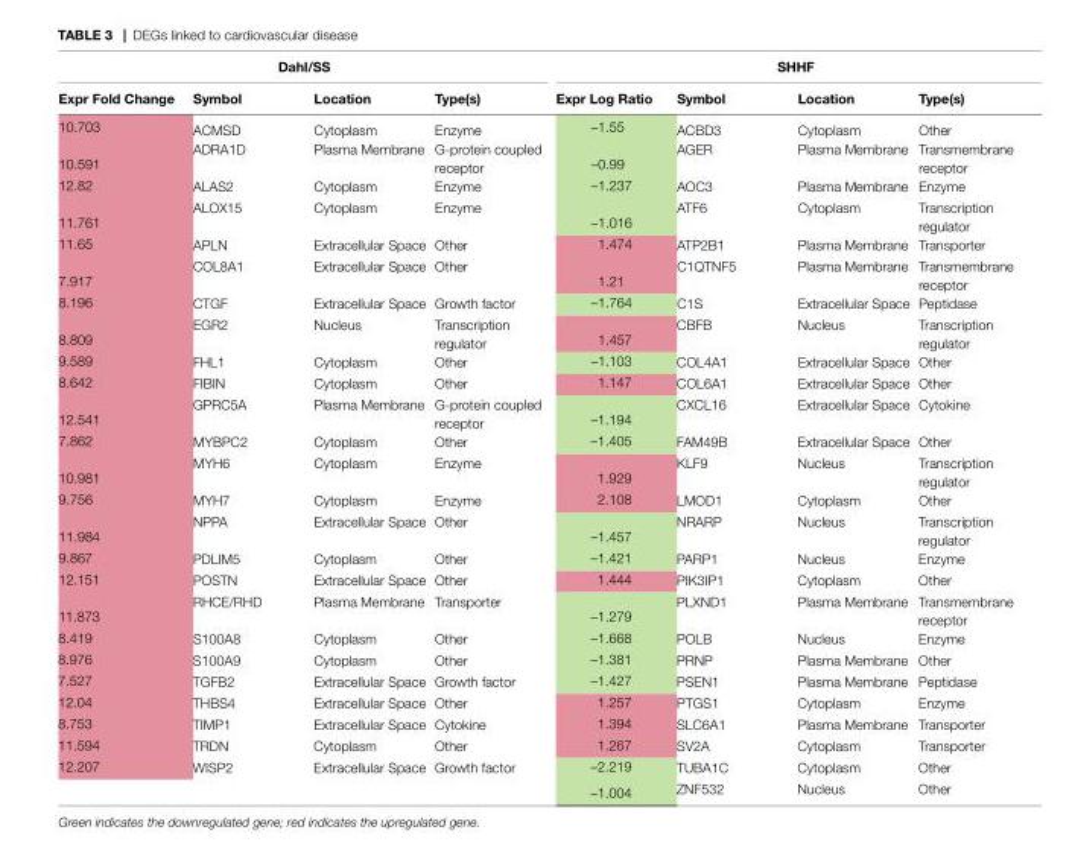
<table><thead><tr><td colspan="4">Dahl/ss</td><td colspan="4">shhF</td></tr><tr><td>expr Fold change</td><td>symbol</td><td>location</td><td>Type(s)</td><td>expr log ratio</td><td>symbol</td><td>location</td><td>Type(s)</td></tr></thead><tbody><tr><td>10.703</td><td>ACMSD</td><td>Cytoplasm</td><td>Enzyme</td><td>–1.55</td><td>ACBD3</td><td>Cytoplasm</td><td>Other</td></tr><tr><td>10.591</td><td>ADRA1D</td><td>Plasma Membrane</td><td>G-protein coupled receptor</td><td>–0.99</td><td>AGER</td><td>Plasma Membrane</td><td>Transmembrane receptor</td></tr><tr><td>12.82</td><td>ALAS2</td><td>Cytoplasm</td><td>Enzyme</td><td>–1.237</td><td>AOC3</td><td>Plasma Membrane</td><td>Enzyme</td></tr><tr><td>11.761</td><td>ALOX15</td><td>Cytoplasm</td><td>Enzyme</td><td>–1.016</td><td>ATF6</td><td>Cytoplasm</td><td>Transcription regulator</td></tr><tr><td>11.65</td><td>APLN</td><td>Extracellular Space</td><td>Other</td><td>1.474</td><td>ATP2B1</td><td>Plasma Membrane</td><td>Transporter</td></tr><tr><td>7.917</td><td>COL8A1</td><td>Extracellular Space</td><td>Other</td><td>1.21</td><td>C1QTNF5</td><td>Plasma Membrane</td><td>Transmembrane receptor</td></tr><tr><td>8.196</td><td>CTGF</td><td>Extracellular Space</td><td>Growth factor</td><td>–1.764</td><td>C1S</td><td>Extracellular Space</td><td>Peptidase</td></tr><tr><td>8.809</td><td>EGR2</td><td>Nucleus</td><td>Transcription regulator</td><td>1.457</td><td>CBFB</td><td>Nucleus</td><td>Transcription regulator</td></tr><tr><td>9.589</td><td>FHL1</td><td>Cytoplasm</td><td>Other</td><td>–1.103</td><td>COL4A1</td><td>Extracellular Space</td><td>Other</td></tr><tr><td>8.642</td><td>FIBIN</td><td>Cytoplasm</td><td>Other</td><td>1.147</td><td>COL6A1</td><td>Extracellular Space</td><td>Other</td></tr><tr><td>12.541</td><td>GPRC5A</td><td>Plasma Membrane</td><td>G-protein coupled receptor</td><td>–1.194</td><td>CXCL16</td><td>Extracellular Space</td><td>Cytokine</td></tr><tr><td>7.862</td><td>MYBPC2</td><td>Cytoplasm</td><td>Other</td><td>–1.405</td><td>FAM49B</td><td>Extracellular Space</td><td>Other</td></tr><tr><td>10.981</td><td>MYH6</td><td>Cytoplasm</td><td>Enzyme</td><td>1.929</td><td>KLF9</td><td>Nucleus</td><td>Transcription regulator</td></tr><tr><td>9.756</td><td>MYH7</td><td>Cytoplasm</td><td>Enzyme</td><td>2.108</td><td>LMOD1</td><td>Cytoplasm</td><td>Other</td></tr><tr><td>11.984</td><td>NPPA</td><td>Extracellular Space</td><td>Other</td><td>–1.457</td><td>NRARP</td><td>Nucleus</td><td>Transcription regulator</td></tr><tr><td>9.867</td><td>PDLIM5</td><td>Cytoplasm</td><td>Other</td><td>–1.421</td><td>PARP1</td><td>Nucleus</td><td>Enzyme</td></tr><tr><td>12.151</td><td>POSTN</td><td>Extracellular Space</td><td>Other</td><td>1.444</td><td>PIK3IP1</td><td>Cytoplasm</td><td>Other</td></tr><tr><td>11.873</td><td>RHCE/RHD</td><td>Plasma Membrane</td><td>Transporter</td><td>–1.279</td><td>PLXND1</td><td>Plasma Membrane</td><td>Transmembrane receptor</td></tr><tr><td>8.419</td><td>S100A8</td><td>Cytoplasm</td><td>Other</td><td>–1.668</td><td>POLB</td><td>Nucleus</td><td>Enzyme</td></tr><tr><td>8.976</td><td>S100A9</td><td>Cytoplasm</td><td>Other</td><td>–1.381</td><td>PRNP</td><td>Plasma Membrane</td><td>Other</td></tr><tr><td>7.527</td><td>TGFB2</td><td>Extracellular Space</td><td>Growth factor</td><td>–1.427</td><td>PSEN1</td><td>Plasma Membrane</td><td>Peptidase</td></tr><tr><td>12.04</td><td>THBS4</td><td>Extracellular Space</td><td>Other</td><td>1.257</td><td>PTGS1</td><td>Cytoplasm</td><td>Enzyme</td></tr><tr><td>8.753</td><td>TIMP1</td><td>Extracellular Space</td><td>Cytokine</td><td>1.394</td><td>SLC6A1</td><td>Plasma Membrane</td><td>Transporter</td></tr><tr><td>11.594</td><td>TRDN</td><td>Cytoplasm</td><td>Other</td><td>1.267</td><td>SV2A</td><td>Cytoplasm</td><td>Transporter</td></tr><tr><td rowspan="2">12.207</td><td>WISP2</td><td>Extracellular Space</td><td>Growth factor</td><td>–2.219</td><td>TUBA1C</td><td>Cytoplasm</td><td>Other</td></tr><tr><td></td><td></td><td></td><td>–1.004</td><td>ZNF532</td><td>Nucleus</td><td>Other</td></tr></tbody></table>